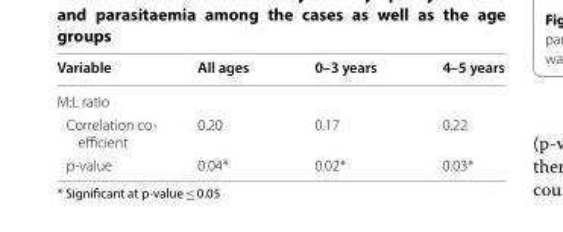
<table><thead><tr><td>Variable</td><td>All ages</td><td>0–3 years</td><td>4–5 years</td></tr></thead><tbody><tr><td colspan="4">M:L ratio</td></tr><tr><td>Correlation co‑ efficient</td><td>0.20</td><td>0.17</td><td>0.22</td></tr><tr><td>p‑value</td><td>0.04*</td><td>0.02*</td><td>0.03*</td></tr></tbody></table>